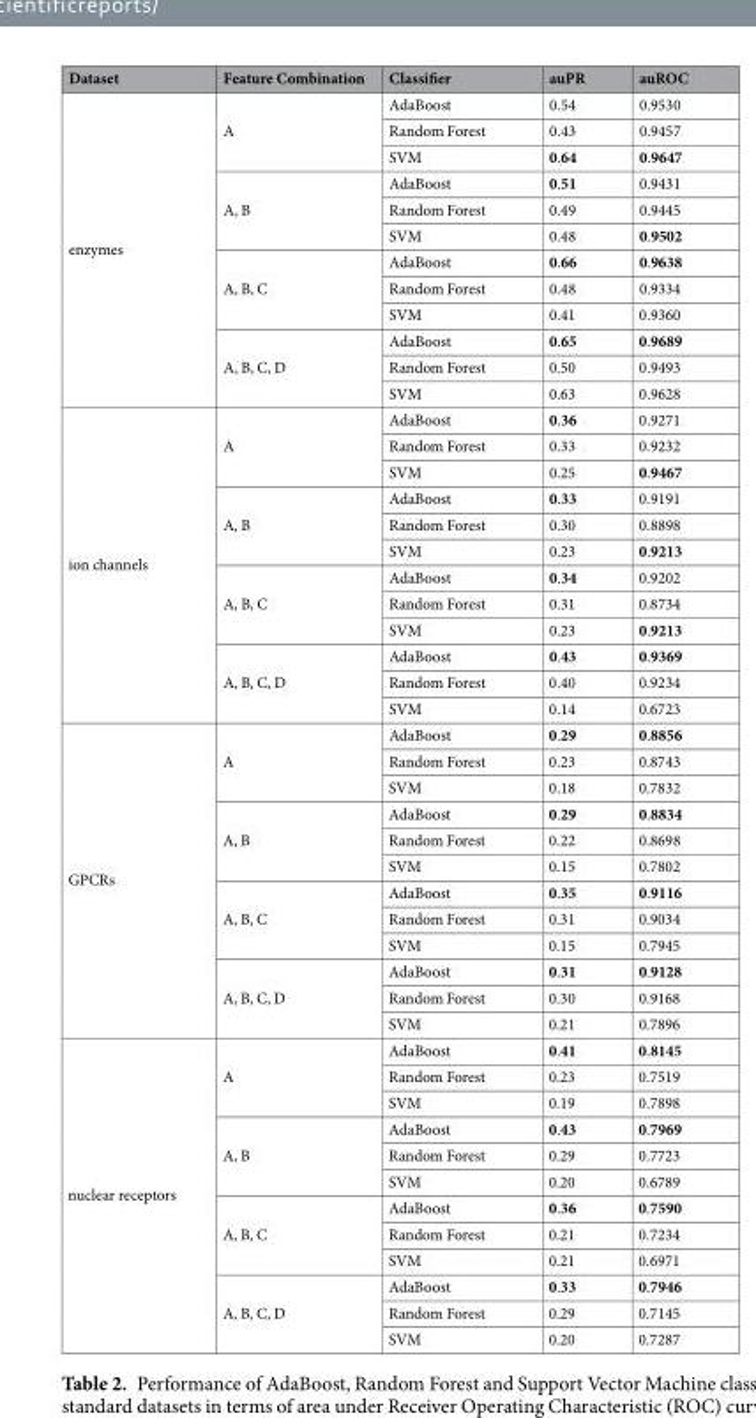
<table><thead><tr><td>Dataset</td><td>Feature Combination</td><td>Classifier</td><td>auPR</td><td>auROC</td></tr></thead><tbody><tr><td rowspan="12">enzymes</td><td rowspan="3">A</td><td>AdaBoost</td><td>0.54</td><td>0.9530</td></tr><tr><td>Random Forest</td><td>0.43</td><td>0.9457</td></tr><tr><td>SVM</td><td>0.64</td><td>0.9647</td></tr><tr><td rowspan="3">A, B</td><td>AdaBoost</td><td>0.51</td><td>0.9431</td></tr><tr><td>Random Forest</td><td>0.49</td><td>0.9445</td></tr><tr><td>SVM</td><td>0.48</td><td>0.9502</td></tr><tr><td rowspan="3">A, B, C</td><td>AdaBoost</td><td>0.66</td><td>0.9638</td></tr><tr><td>Random Forest</td><td>0.48</td><td>0.9334</td></tr><tr><td>SVM</td><td>0.41</td><td>0.9360</td></tr><tr><td rowspan="3">A, B, C, D</td><td>AdaBoost</td><td>0.65</td><td>0.9689</td></tr><tr><td>Random Forest</td><td>0.50</td><td>0.9493</td></tr><tr><td>SVM</td><td>0.63</td><td>0.9628</td></tr><tr><td rowspan="12">ion channels</td><td rowspan="3">A</td><td>AdaBoost</td><td>0.36</td><td>0.9271</td></tr><tr><td>Random Forest</td><td>0.33</td><td>0.9232</td></tr><tr><td>SVM</td><td>0.25</td><td>0.9467</td></tr><tr><td rowspan="3">A, B</td><td>AdaBoost</td><td>0.33</td><td>0.9191</td></tr><tr><td>Random Forest</td><td>0.30</td><td>0.8898</td></tr><tr><td>SVM</td><td>0.23</td><td>0.9213</td></tr><tr><td rowspan="3">A, B, C</td><td>AdaBoost</td><td>0.34</td><td>0.9202</td></tr><tr><td>Random Forest</td><td>0.31</td><td>0.8734</td></tr><tr><td>SVM</td><td>0.23</td><td>0.9213</td></tr><tr><td rowspan="3">A, B, C, D</td><td>AdaBoost</td><td>0.43</td><td>0.9369</td></tr><tr><td>Random Forest</td><td>0.40</td><td>0.9234</td></tr><tr><td>SVM</td><td>0.14</td><td>0.6723</td></tr><tr><td rowspan="12">GPCRs</td><td rowspan="3">A</td><td>AdaBoost</td><td>0.29</td><td>0.8856</td></tr><tr><td>Random Forest</td><td>0.23</td><td>0.8743</td></tr><tr><td>SVM</td><td>0.18</td><td>0.7832</td></tr><tr><td rowspan="3">A, B</td><td>AdaBoost</td><td>0.29</td><td>0.8834</td></tr><tr><td>Random Forest</td><td>0.22</td><td>0.8698</td></tr><tr><td>SVM</td><td>0.15</td><td>0.7802</td></tr><tr><td rowspan="3">A, B, C</td><td>AdaBoost</td><td>0.35</td><td>0.9116</td></tr><tr><td>Random Forest</td><td>0.31</td><td>0.9034</td></tr><tr><td>SVM</td><td>0.15</td><td>0.7945</td></tr><tr><td rowspan="3">A, B, C, D</td><td>AdaBoost</td><td>0.31</td><td>0.9128</td></tr><tr><td>Random Forest</td><td>0.30</td><td>0.9168</td></tr><tr><td>SVM</td><td>0.21</td><td>0.7896</td></tr><tr><td rowspan="12">nuclear receptors</td><td rowspan="3">A</td><td>AdaBoost</td><td>0.41</td><td>0.8145</td></tr><tr><td>Random Forest</td><td>0.23</td><td>0.7519</td></tr><tr><td>SVM</td><td>0.19</td><td>0.7898</td></tr><tr><td rowspan="3">A, B</td><td>AdaBoost</td><td>0.43</td><td>0.7969</td></tr><tr><td>Random Forest</td><td>0.29</td><td>0.7723</td></tr><tr><td>SVM</td><td>0.20</td><td>0.6789</td></tr><tr><td rowspan="3">A, B, C</td><td>AdaBoost</td><td>0.36</td><td>0.7590</td></tr><tr><td>Random Forest</td><td>0.21</td><td>0.7234</td></tr><tr><td>SVM</td><td>0.21</td><td>0.6971</td></tr><tr><td rowspan="3">A, B, C, D</td><td>AdaBoost</td><td>0.33</td><td>0.7946</td></tr><tr><td>Random Forest</td><td>0.29</td><td>0.7145</td></tr><tr><td>SVM</td><td>0.20</td><td>0.7287</td></tr></tbody></table>